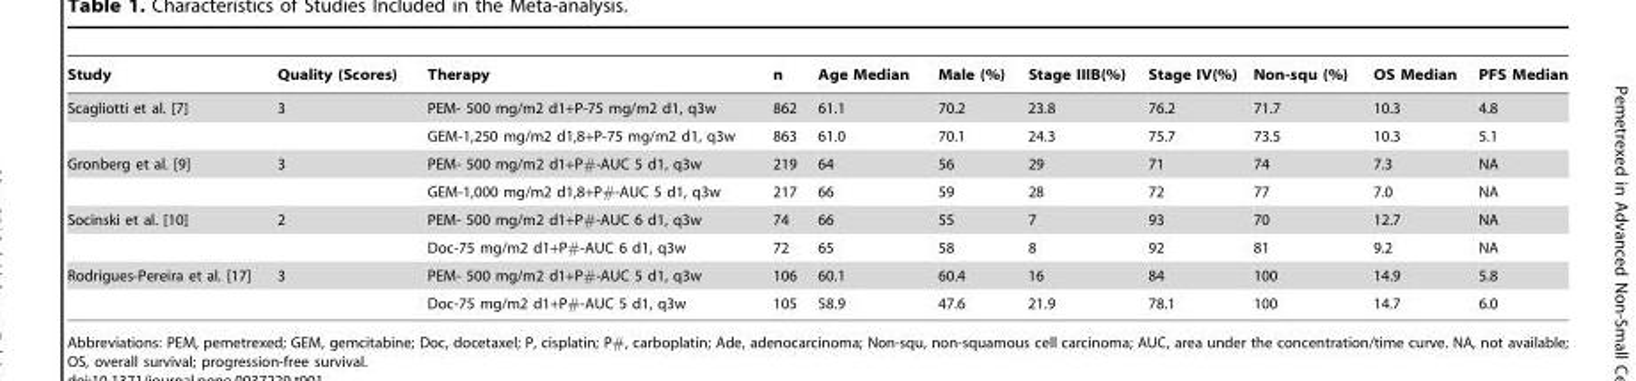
<table><thead><tr><td>Study</td><td>Quality (Scores)</td><td>Therapy</td><td>n</td><td>Age Median</td><td>Male (%)</td><td>Stage IIIB(%)</td><td>Stage IV(%)</td><td>Non-squ (%)</td><td>OS Median</td><td>PFS Median</td></tr></thead><tbody><tr><td rowspan="2">Scagliotti et al. [7]</td><td>3</td><td>PEM- 500 mg/m2 d1+P-75 mg/m2 d1, q3w</td><td>862</td><td>61.1</td><td>70.2</td><td>23.8</td><td>76.2</td><td>71.7</td><td>10.3</td><td>4.8</td></tr><tr><td></td><td>GEM-1,250 mg/m2 d1,8+P-75 mg/m2 d1, q3w</td><td>863</td><td>61.0</td><td>70.1</td><td>24.3</td><td>75.7</td><td>73.5</td><td>10.3</td><td>5.1</td></tr><tr><td rowspan="2">Gronberg et al. [9]</td><td>3</td><td>PEM- 500 mg/m2 d1+P#-AUC 5 d1, q3w</td><td>219</td><td>64</td><td>56</td><td>29</td><td>71</td><td>74</td><td>7.3</td><td>NA</td></tr><tr><td></td><td>GEM-1,000 mg/m2 d1,8+P#-AUC 5 d1, q3w</td><td>217</td><td>66</td><td>59</td><td>28</td><td>72</td><td>77</td><td>7.0</td><td>NA</td></tr><tr><td rowspan="2">Socinski et al. [10]</td><td>2</td><td>PEM- 500 mg/m2 d1+P#-AUC 6 d1, q3w</td><td>74</td><td>66</td><td>55</td><td>7</td><td>93</td><td>70</td><td>12.7</td><td>NA</td></tr><tr><td></td><td>Doc-75 mg/m2 d1+P#-AUC 6 d1, q3w</td><td>72</td><td>65</td><td>58</td><td>8</td><td>92</td><td>81</td><td>9.2</td><td>NA</td></tr><tr><td rowspan="2">Rodrigues-Pereira et al. [17]</td><td>3</td><td>PEM- 500 mg/m2 d1+P#-AUC 5 d1, q3w</td><td>106</td><td>60.1</td><td>60.4</td><td>16</td><td>84</td><td>100</td><td>14.9</td><td>5.8</td></tr><tr><td></td><td>Doc-75 mg/m2 d1+P#-AUC 5 d1, q3w</td><td>105</td><td>58.9</td><td>47.6</td><td>21.9</td><td>78.1</td><td>100</td><td>14.7</td><td>6.0</td></tr></tbody></table>